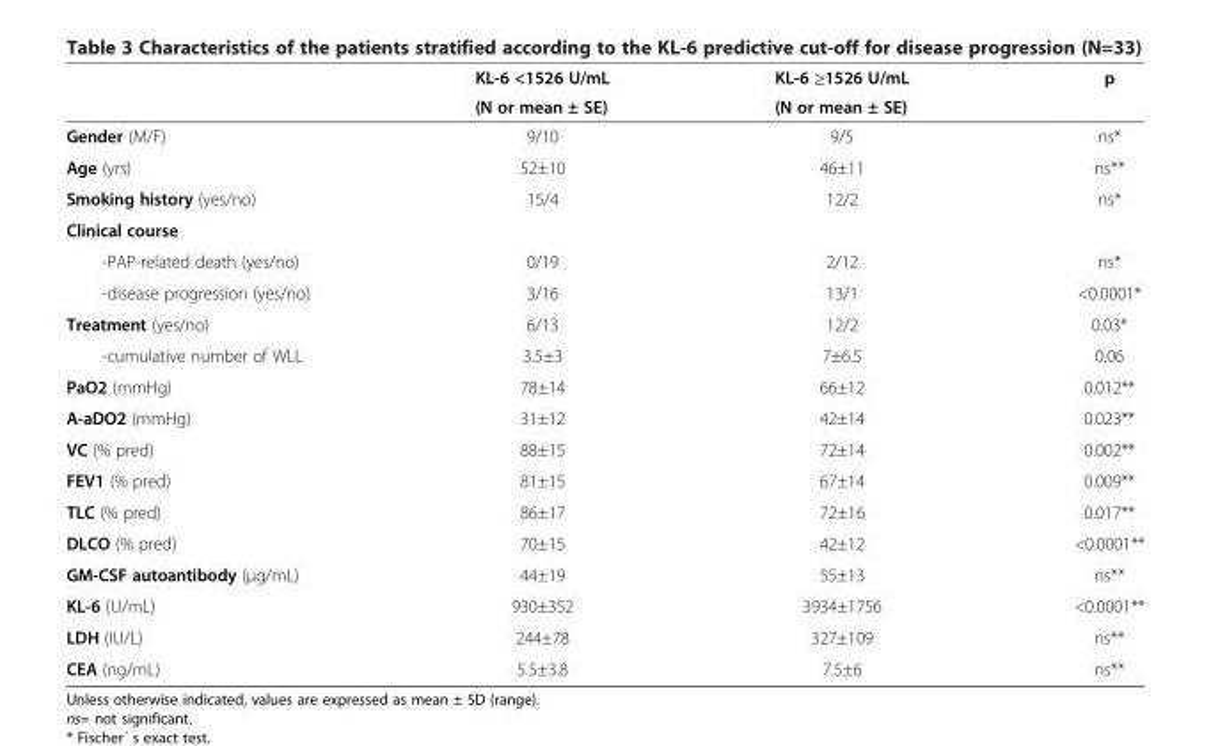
<table><thead><tr><td rowspan="2"></td><td rowspan="2">KL-6 &lt;1526 U/mL (N or mean ± SE)</td><td rowspan="2">KL-6 ≥1526 U/mL (N or mean ± SE)</td><td rowspan="2">p</td></tr><tr></tr></thead><tbody><tr><td>Gender (M/F)</td><td>9/10</td><td>9/5</td><td>ns*</td></tr><tr><td>Age (yrs)</td><td>52±10</td><td>46±11</td><td>ns**</td></tr><tr><td>Smoking history (yes/no)</td><td>15/4</td><td>12/2</td><td>ns*</td></tr><tr><td colspan="4">Clinical course</td></tr><tr><td>-PAP-related death (yes/no)</td><td>0/19</td><td>2/12</td><td>ns*</td></tr><tr><td>-disease progression (yes/no)</td><td>3/16</td><td>13/1</td><td>&lt;0.0001*</td></tr><tr><td>Treatment (yes/no)</td><td>6/13</td><td>12/2</td><td>0.03*</td></tr><tr><td>-cumulative number of WLL</td><td>3.5±3</td><td>7±6.5</td><td>0.06</td></tr><tr><td>PaO2 (mmHg)</td><td>78±14</td><td>66±12</td><td>0.012**</td></tr><tr><td>A-aDO2 (mmHg)</td><td>31±12</td><td>42±14</td><td>0.023**</td></tr><tr><td>VC (% pred)</td><td>88±15</td><td>72±14</td><td>0.002**</td></tr><tr><td>FEV1 (% pred)</td><td>81±15</td><td>67±14</td><td>0.009**</td></tr><tr><td>TLC (% pred)</td><td>86±17</td><td>72±16</td><td>0.017**</td></tr><tr><td>DLCO (% pred)</td><td>70±15</td><td>42±12</td><td>&lt;0.0001**</td></tr><tr><td>GM-CSF autoantibody (μg/mL)</td><td>44±19</td><td>55±13</td><td>ns**</td></tr><tr><td>KL-6 (U/mL)</td><td>930±352</td><td>3934±1756</td><td>&lt;0.0001**</td></tr><tr><td>LDH (IU/L)</td><td>244±78</td><td>327±109</td><td>ns**</td></tr><tr><td>CEA (ng/mL)</td><td>5.5±3.8</td><td>7.5±6</td><td>ns**</td></tr></tbody></table>